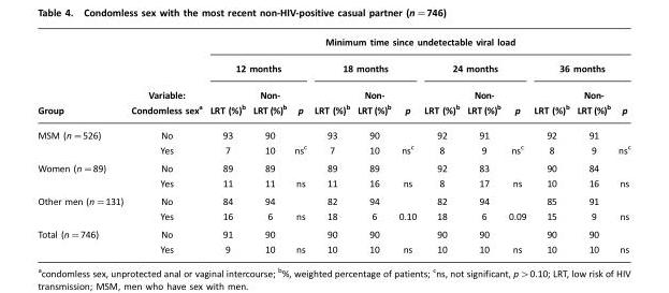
<table><thead><tr><td rowspan="3">Group</td><td rowspan="3">Variable: Condomless sex<sup>a</sup></td><td colspan="12">Minimum time since undetectable viral load</td></tr><tr><td colspan="3">12 months</td><td colspan="3">18 months</td><td colspan="3">24 months</td><td colspan="3">36 months</td></tr><tr><td>LRT (%)<sup>b</sup></td><td>Non- LRT (%)<sup>b</sup></td><td>p</td><td>LRT (%)<sup>b</sup></td><td>Non- LRT (%)<sup>b</sup></td><td>p</td><td>LRT (%)<sup>b</sup></td><td>Non- LRT (%)<sup>b</sup></td><td>p</td><td>LRT (%)<sup>b</sup></td><td>Non- LRT (%)<sup>b</sup></td><td>p</td></tr></thead><tbody><tr><td rowspan="2">MSM (n=526)</td><td>No</td><td>93</td><td>90</td><td></td><td>93</td><td>90</td><td></td><td>92</td><td>91</td><td></td><td>92</td><td>91</td><td></td></tr><tr><td>Yes</td><td>7</td><td>10</td><td>ns<sup>c</sup></td><td>7</td><td>10</td><td>ns<sup>c</sup></td><td>8</td><td>9</td><td>ns<sup>c</sup></td><td>8</td><td>9</td><td>ns<sup>c</sup></td></tr><tr><td rowspan="2">Women (n=89)</td><td>No</td><td>89</td><td>89</td><td></td><td>89</td><td>89</td><td></td><td>92</td><td>83</td><td></td><td>90</td><td>84</td><td></td></tr><tr><td>Yes</td><td>11</td><td>11</td><td>ns</td><td>11</td><td>16</td><td>ns</td><td>8</td><td>17</td><td>ns</td><td>10</td><td>16</td><td>ns</td></tr><tr><td rowspan="2">Other men (n=131)</td><td>No</td><td>84</td><td>94</td><td></td><td>82</td><td>94</td><td></td><td>82</td><td>94</td><td></td><td>85</td><td>91</td><td></td></tr><tr><td>Yes</td><td>16</td><td>6</td><td>ns</td><td>18</td><td>6</td><td>0.10</td><td>18</td><td>6</td><td>0.09</td><td>15</td><td>9</td><td>ns</td></tr><tr><td rowspan="2">Total (n=746)</td><td>No</td><td>91</td><td>90</td><td></td><td>90</td><td>90</td><td></td><td>90</td><td>90</td><td></td><td>90</td><td>90</td><td></td></tr><tr><td>Yes</td><td>9</td><td>10</td><td>ns</td><td>10</td><td>10</td><td>ns</td><td>10</td><td>10</td><td>ns</td><td>10</td><td>10</td><td>ns</td></tr></tbody></table>